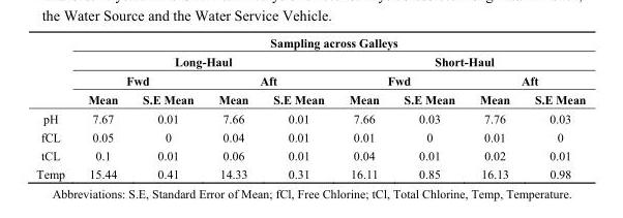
<table><thead><tr><td rowspan="4"></td><td colspan="8">Sampling across Galleys</td></tr><tr><td colspan="4">Long-Haul</td><td colspan="4">Short-Haul</td></tr><tr><td colspan="2">Fwd</td><td colspan="2">Aft</td><td colspan="2">Fwd</td><td colspan="2">Aft</td></tr><tr><td>Mean</td><td>S.E Mean</td><td>Mean</td><td>S.E Mean</td><td>Mean</td><td>S.E Mean</td><td>Mean</td><td>S.E Mean</td></tr></thead><tbody><tr><td>pH</td><td>7.67</td><td>0.01</td><td>7.66</td><td>0.01</td><td>7.66</td><td>0.03</td><td>7.76</td><td>0.03</td></tr><tr><td>fCL</td><td>0.05</td><td>0</td><td>0.04</td><td>0.01</td><td>0.01</td><td>0</td><td>0.01</td><td>0</td></tr><tr><td>tCL</td><td>0.1</td><td>0.01</td><td>0.06</td><td>0.01</td><td>0.04</td><td>0.01</td><td>0.02</td><td>0.01</td></tr><tr><td>Temp</td><td>15.44</td><td>0.41</td><td>14.33</td><td>0.31</td><td>16.11</td><td>0.85</td><td>16.13</td><td>0.98</td></tr></tbody></table>